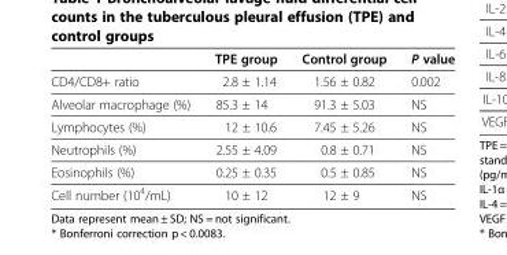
<table><thead><tr><td></td><td>TPE group</td><td>Control group</td><td>P value</td></tr></thead><tbody><tr><td>CD4/CD8+ ratio</td><td>2.8 ± 1.14</td><td>1.56 ± 0.82</td><td>0.002</td></tr><tr><td>Alveolar macrophage (%)</td><td>85.3 ± 14</td><td>91.3 ± 5.03</td><td>NS</td></tr><tr><td>Lymphocytes (%)</td><td>12 ± 10.6</td><td>7.45 ± 5.26</td><td>NS</td></tr><tr><td>Neutrophils (%)</td><td>2.55 ± 4.09</td><td>0.8 ± 0.71</td><td>NS</td></tr><tr><td>Eosinophils (%)</td><td>0.25 ± 0.35</td><td>0.5 ± 0.85</td><td>NS</td></tr><tr><td>Cell number (10<sup>4</sup>/mL)</td><td>10 ± 12</td><td>12 ± 9</td><td>NS</td></tr></tbody></table>